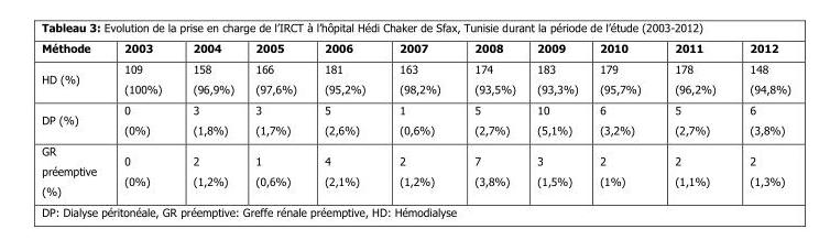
<table><thead><tr><td>Méthode</td><td>2003</td><td>2004</td><td>2005</td><td>2006</td><td>2007</td><td>2008</td><td>2009</td><td>2010</td><td>2011</td><td>2012</td></tr></thead><tbody><tr><td>HD (%)</td><td>109 (100%)</td><td>158 (96,9%)</td><td>166 (97,6%)</td><td>181 (95,2%)</td><td>163 (98,2%)</td><td>174 (93,5%)</td><td>183 (93,3%)</td><td>179 (95,7%)</td><td>178 (96,2%)</td><td>148 (94,8%)</td></tr><tr><td>DP (%)</td><td>0 (0%)</td><td>3 (1,8%)</td><td>3 (1,7%)</td><td>5 (2,6%)</td><td>1 (0,6%)</td><td>5 (2,7%)</td><td>10 (5,1%)</td><td>6 (3,2%)</td><td>5 (2,7%)</td><td>6 (3,8%)</td></tr><tr><td>GR préemptive (%)</td><td>0 (0%)</td><td>2 (1,2%)</td><td>1 (0,6%)</td><td>4 (2,1%)</td><td>2 (1,2%)</td><td>7 (3,8%)</td><td>3 (1,5%)</td><td>2 (1%)</td><td>2 (1,1%)</td><td>2 (1,3%)</td></tr></tbody></table>